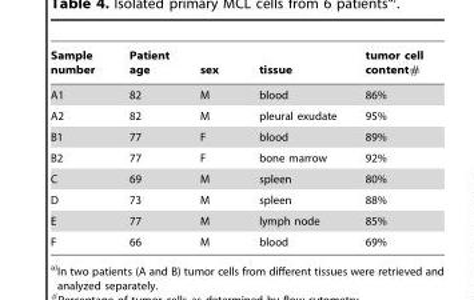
<table><thead><tr><td>Sample number</td><td>Patient age</td><td>sex</td><td>tissue</td><td>tumor cell content#</td></tr></thead><tbody><tr><td>A1</td><td>82</td><td>M</td><td>blood</td><td>86%</td></tr><tr><td>A2</td><td>82</td><td>M</td><td>pleural exudate</td><td>95%</td></tr><tr><td>B1</td><td>77</td><td>F</td><td>blood</td><td>89%</td></tr><tr><td>B2</td><td>77</td><td>F</td><td>bone marrow</td><td>92%</td></tr><tr><td>C</td><td>69</td><td>M</td><td>spleen</td><td>80%</td></tr><tr><td>D</td><td>73</td><td>M</td><td>spleen</td><td>88%</td></tr><tr><td>E</td><td>77</td><td>M</td><td>lymph node</td><td>85%</td></tr><tr><td>F</td><td>66</td><td>M</td><td>blood</td><td>69%</td></tr></tbody></table>